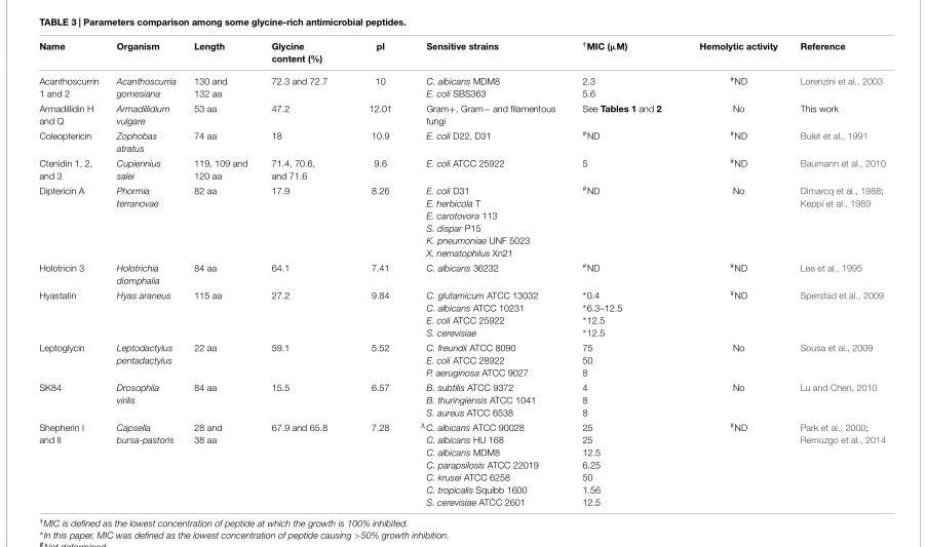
<table><thead><tr><td>Name</td><td>Organism</td><td>Length</td><td>Glycine content (%)</td><td>pI</td><td>Sensitive strains</td><td><sup>†</sup>MIC (µM)</td><td>Hemolytic activity</td><td>Reference</td></tr></thead><tbody><tr><td>Acanthoscurrin 1 and 2</td><td>Acanthoscurria gomesiana</td><td>130 and 132 aa</td><td>72.3 and 72.7</td><td>10</td><td>C. albicans MDM8 E. coli SBS363</td><td>2.3 5.6</td><td><sup>#</sup>ND</td><td>Lorenzini et al., 2003</td></tr><tr><td>Armadillidin H and Q</td><td>Armadillidium vulgare</td><td>53 aa</td><td>47.2</td><td>12.01</td><td>Gram+, Gram− and filamentous fungi</td><td>See Tables 1 and 2</td><td>No</td><td>This work</td></tr><tr><td>Coleoptericin</td><td>Zophobas atratus</td><td>74 aa</td><td>18</td><td>10.9</td><td>E. coli D22, D31</td><td><sup>#</sup>ND</td><td><sup>#</sup>ND</td><td>Bulet et al., 1991</td></tr><tr><td>Ctenidin 1, 2, and 3</td><td>Cupiennius salei</td><td>119, 109 and 120 aa</td><td>71.4, 70.6, and 71.6</td><td>9.6</td><td>E. coli ATCC 25922</td><td>5</td><td><sup>#</sup>ND</td><td>Baumann et al., 2010</td></tr><tr><td>Diptericin A</td><td>Phormia terranovae</td><td>82 aa</td><td>17.9</td><td>8.26</td><td>E. coli D31 E. herbicola T E. carotovora 113 S. dispar P15 K. pneumoniae UNF 5023 X. nematophilus Xn21</td><td><sup>#</sup>ND</td><td>No</td><td>Dimarcq et al., 1988; Keppi et al., 1989</td></tr><tr><td>Holotricin 3</td><td>Holotrichia diomphalia</td><td>84 aa</td><td>64.1</td><td>7.41</td><td>C. albicans 36232</td><td><sup>#</sup>ND</td><td><sup>#</sup>ND</td><td>Lee et al., 1995</td></tr><tr><td>Hyastatin</td><td>Hyas araneus</td><td>115 aa</td><td>27.2</td><td>9.84</td><td>C. glutamicum ATCC 13032 C. albicans ATCC 10231 E. coli ATCC 25922 S. cerevisiae</td><td>∗0.4 ∗6.3–12.5 ∗12.5 ∗12.5</td><td><sup>#</sup>ND</td><td>Sperstad et al., 2009</td></tr><tr><td>Leptoglycin</td><td>Leptodactylus pentadactylus</td><td>22 aa</td><td>59.1</td><td>5.52</td><td>C. freundii ATCC 8090 E. coli ATCC 28922 P. aeruginosa ATCC 9027</td><td>75 50 8</td><td>No</td><td>Sousa et al., 2009</td></tr><tr><td>SK84</td><td>Drosophila virilis</td><td>84 aa</td><td>15.5</td><td>6.57</td><td>B. subtilis ATCC 9372 B. thuringiensis ATCC 1041 S. aureus ATCC 6538</td><td>4 8 8</td><td>No</td><td>Lu and Chen, 2010</td></tr><tr><td>Shepherin I and II</td><td>Capsella bursa-pastoris</td><td>28 and 38 aa</td><td>67.9 and 65.8</td><td>7.28</td><td><sup>Δ</sup>C. albicans ATCC 90028 C. albicans HU 168 C. albicans MDM8 C. parapsilosis ATCC 22019 C. krusei ATCC 6258 C. tropicalis Squibb 1600 S. cerevisiae ATCC 2601</td><td>25 25 12.5 6.25 50 1.56 12.5</td><td><sup>#</sup>ND</td><td>Park et al., 2000; Remuzgo et al., 2014</td></tr></tbody></table>